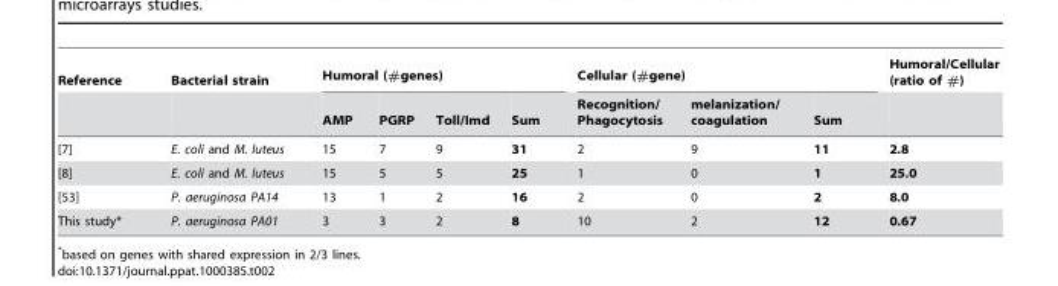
<table><thead><tr><td rowspan="2">Reference</td><td rowspan="2">Bacterial strain</td><td colspan="4">Humoral (#genes)</td><td colspan="3">Cellular (#gene)</td><td rowspan="2">Humoral/Cellular (ratio of #)</td></tr><tr><td>AMP</td><td>PGRP</td><td>Toll/Imd</td><td>Sum</td><td>Recognition/ Phagocytosis</td><td>melanization/ coagulation</td><td>Sum</td></tr></thead><tbody><tr><td>[7]</td><td>E. coli and M. luteus</td><td>15</td><td>7</td><td>9</td><td>31</td><td>2</td><td>9</td><td>11</td><td>2.8</td></tr><tr><td>[8]</td><td>E. coli and M. luteus</td><td>15</td><td>5</td><td>5</td><td>25</td><td>1</td><td>0</td><td>1</td><td>25.0</td></tr><tr><td>[53]</td><td>P. aeruginosa PA14</td><td>13</td><td>1</td><td>2</td><td>16</td><td>2</td><td>0</td><td>2</td><td>8.0</td></tr><tr><td>This study*</td><td>P. aeruginosa PA01</td><td>3</td><td>3</td><td>2</td><td>8</td><td>10</td><td>2</td><td>12</td><td>0.67</td></tr></tbody></table>